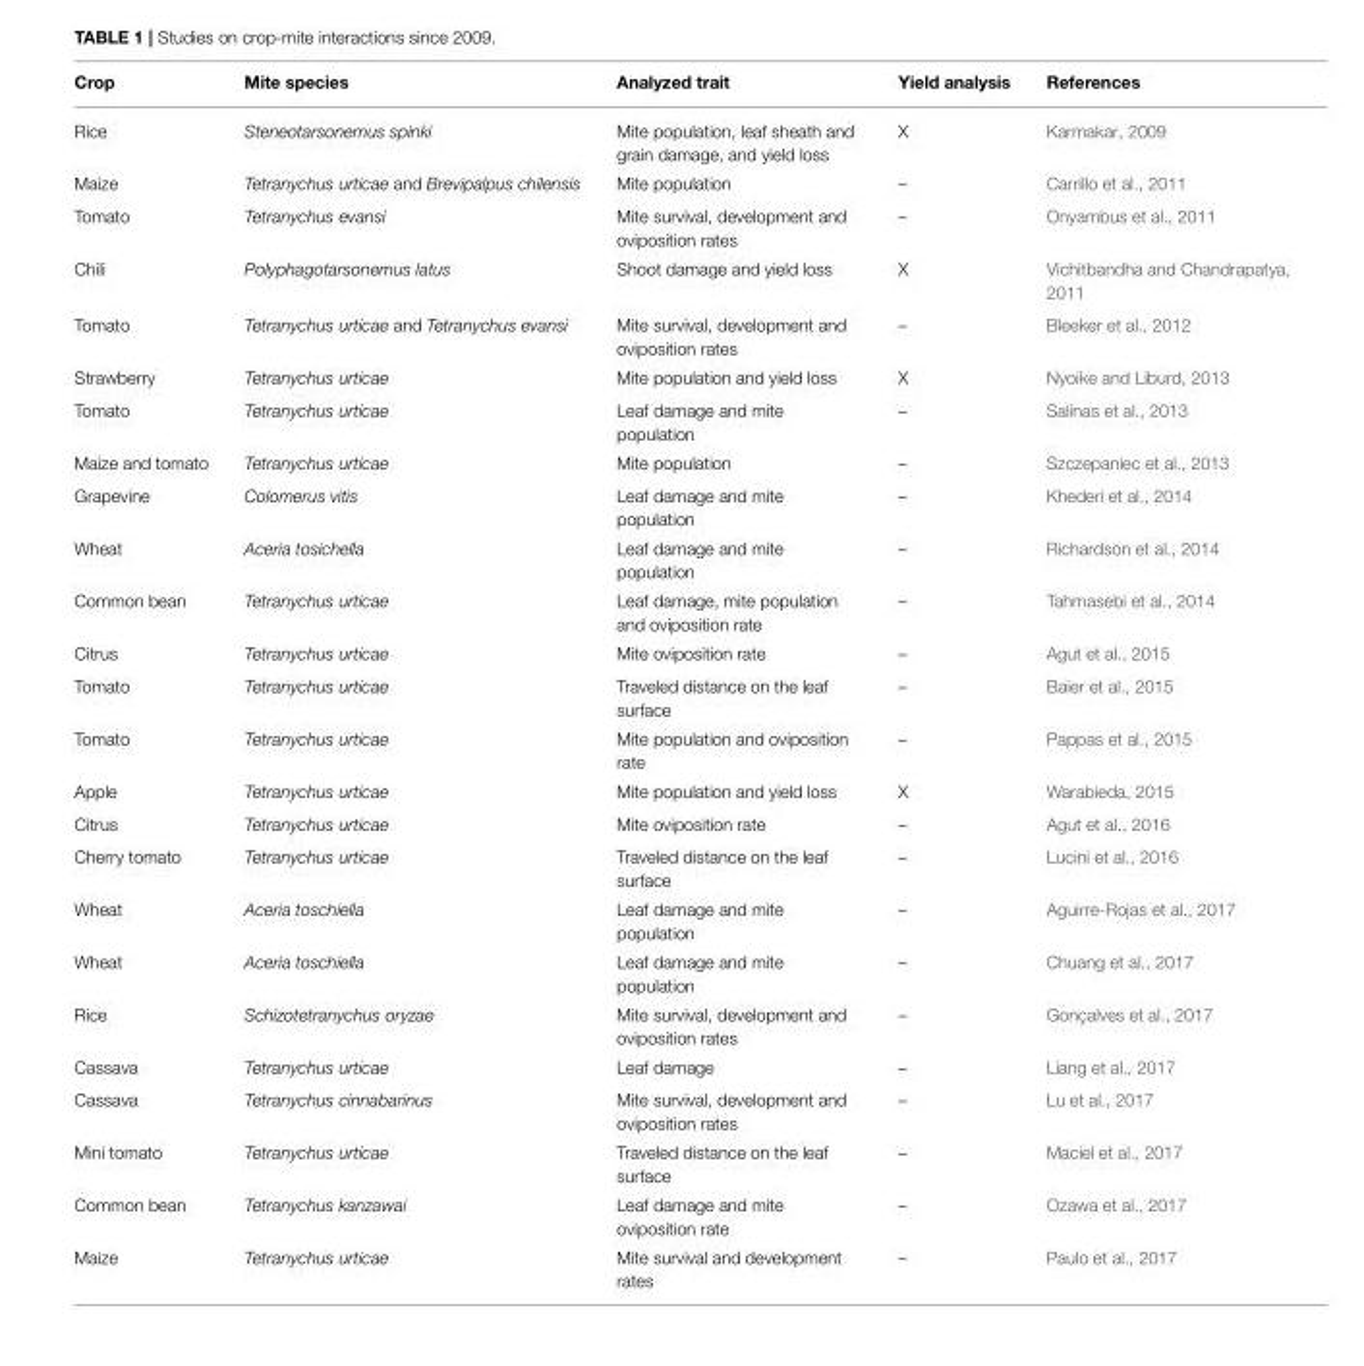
<table><thead><tr><td>Crop</td><td>Mite species</td><td>Analyzed trait</td><td>Yield analysis</td><td>References</td></tr></thead><tbody><tr><td>Rice</td><td>Steneotarsonemus spinki</td><td>Mite population, leaf sheath and grain damage, and yield loss</td><td>X</td><td>Karmakar, 2009</td></tr><tr><td>Maize</td><td>Tetranychus urticae and Brevipalpus chilensis</td><td>Mite population</td><td>–</td><td>Carrillo et al., 2011</td></tr><tr><td>Tomato</td><td>Tetranychus evansi</td><td>Mite survival, development and oviposition rates</td><td>–</td><td>Onyambus et al., 2011</td></tr><tr><td>Chili</td><td>Polyphagotarsonemus latus</td><td>Shoot damage and yield loss</td><td>X</td><td>Vichitbandha and Chandrapatya, 2011</td></tr><tr><td>Tomato</td><td>Tetranychus urticae and Tetranychus evansi</td><td>Mite survival, development and oviposition rates</td><td>–</td><td>Bleeker et al., 2012</td></tr><tr><td>Strawberry</td><td>Tetranychus urticae</td><td>Mite population and yield loss</td><td>X</td><td>Nyoike and Liburd, 2013</td></tr><tr><td>Tomato</td><td>Tetranychus urticae</td><td>Leaf damage and mite population</td><td>–</td><td>Salinas et al., 2013</td></tr><tr><td>Maize and tomato</td><td>Tetranychus urticae</td><td>Mite population</td><td>–</td><td>Szczepaniec et al., 2013</td></tr><tr><td>Grapevine</td><td>Colomerus vitis</td><td>Leaf damage and mite population</td><td>–</td><td>Khederi et al., 2014</td></tr><tr><td>Wheat</td><td>Aceria tosichella</td><td>Leaf damage and mite population</td><td>–</td><td>Richardson et al., 2014</td></tr><tr><td>Common bean</td><td>Tetranychus urticae</td><td>Leaf damage, mite population and oviposition rate</td><td>–</td><td>Tahmasebi et al., 2014</td></tr><tr><td>Citrus</td><td>Tetranychus urticae</td><td>Mite oviposition rate</td><td>–</td><td>Agut et al., 2015</td></tr><tr><td>Tomato</td><td>Tetranychus urticae</td><td>Traveled distance on the leaf surface</td><td>–</td><td>Baier et al., 2015</td></tr><tr><td>Tomato</td><td>Tetranychus urticae</td><td>Mite population and oviposition rate</td><td>–</td><td>Pappas et al., 2015</td></tr><tr><td>Apple</td><td>Tetranychus urticae</td><td>Mite population and yield loss</td><td>X</td><td>Warabieda, 2015</td></tr><tr><td>Citrus</td><td>Tetranychus urticae</td><td>Mite oviposition rate</td><td>–</td><td>Agut et al., 2016</td></tr><tr><td>Cherry tomato</td><td>Tetranychus urticae</td><td>Traveled distance on the leaf surface</td><td>–</td><td>Lucini et al., 2016</td></tr><tr><td>Wheat</td><td>Aceria toschiella</td><td>Leaf damage and mite population</td><td>–</td><td>Aguirre-Rojas et al., 2017</td></tr><tr><td>Wheat</td><td>Aceria toschiella</td><td>Leaf damage and mite population</td><td>–</td><td>Chuang et al., 2017</td></tr><tr><td>Rice</td><td>Schizotetranychus oryzae</td><td>Mite survival, development and oviposition rates</td><td>–</td><td>Gonçalves et al., 2017</td></tr><tr><td>Cassava</td><td>Tetranychus urticae</td><td>Leaf damage</td><td>–</td><td>Liang et al., 2017</td></tr><tr><td>Cassava</td><td>Tetranychus cinnabarinus</td><td>Mite survival, development and oviposition rates</td><td>–</td><td>Lu et al., 2017</td></tr><tr><td>Mini tomato</td><td>Tetranychus urticae</td><td>Traveled distance on the leaf surface</td><td>–</td><td>Maciel et al., 2017</td></tr><tr><td>Common bean</td><td>Tetranychus kanzawai</td><td>Leaf damage and mite oviposition rate</td><td>–</td><td>Ozawa et al., 2017</td></tr><tr><td>Maize</td><td>Tetranychus urticae</td><td>Mite survival and development rates</td><td>–</td><td>Paulo et al., 2017</td></tr></tbody></table>